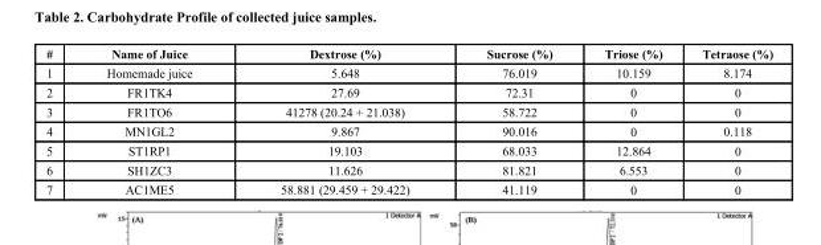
<table><thead><tr><td>#</td><td>Name of Juice</td><td>Dextrose (%)</td><td>Sucrose (%)</td><td>Triose (%)</td><td>Tetraose (%)</td></tr></thead><tbody><tr><td>1</td><td>Homemade juice</td><td>5.648</td><td>76.019</td><td>10.159</td><td>8.174</td></tr><tr><td>2</td><td>FR1TK4</td><td>27.69</td><td>72.31</td><td>0</td><td>0</td></tr><tr><td>3</td><td>FR1TO6</td><td>41278 (20.24 + 21.038)</td><td>58.722</td><td>0</td><td>0</td></tr><tr><td>4</td><td>MN1GL2</td><td>9.867</td><td>90.016</td><td>0</td><td>0.118</td></tr><tr><td>5</td><td>ST1RP1</td><td>19.103</td><td>68.033</td><td>12.864</td><td>0</td></tr><tr><td>6</td><td>SH1ZC3</td><td>11.626</td><td>81.821</td><td>6.553</td><td>0</td></tr><tr><td>7</td><td>AC1ME5</td><td>58.881 (29.459 + 29.422)</td><td>41.119</td><td>0</td><td>0</td></tr></tbody></table>